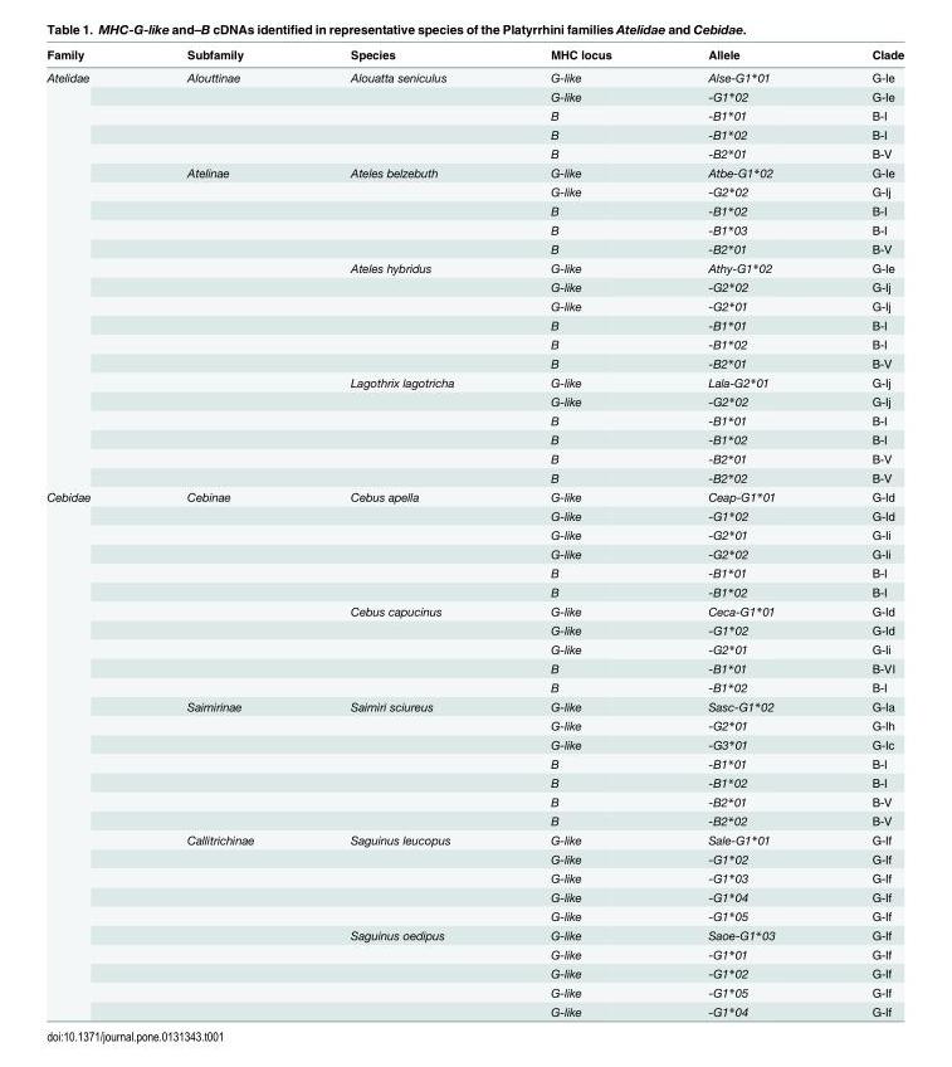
<table><thead><tr><td>Family</td><td>Subfamily</td><td>Species</td><td>MHC locus</td><td>Allele</td><td>Clade</td></tr></thead><tbody><tr><td rowspan="22">Atelidae</td><td>Alouttinae</td><td>Alouatta seniculus</td><td>G-like</td><td>Alse-G1*01</td><td>G-Ie</td></tr><tr><td></td><td></td><td>G-like</td><td>-G1*02</td><td>G-Ie</td></tr><tr><td></td><td></td><td>B</td><td>-B1*01</td><td>B-I</td></tr><tr><td></td><td></td><td>B</td><td>-B1*02</td><td>B-I</td></tr><tr><td></td><td></td><td>B</td><td>-B2*01</td><td>B-V</td></tr><tr><td>Atelinae</td><td>Ateles belzebuth</td><td>G-like</td><td>Atbe-G1*02</td><td>G-Ie</td></tr><tr><td></td><td></td><td>G-like</td><td>-G2*02</td><td>G-Ij</td></tr><tr><td></td><td></td><td>B</td><td>-B1*02</td><td>B-I</td></tr><tr><td></td><td></td><td>B</td><td>-B1*03</td><td>B-I</td></tr><tr><td></td><td></td><td>B</td><td>-B2*01</td><td>B-V</td></tr><tr><td></td><td>Ateles hybridus</td><td>G-like</td><td>Athy-G1*02</td><td>G-Ie</td></tr><tr><td></td><td></td><td>G-like</td><td>-G2*02</td><td>G-Ij</td></tr><tr><td></td><td></td><td>G-like</td><td>-G2*01</td><td>G-Ij</td></tr><tr><td></td><td></td><td>B</td><td>-B1*01</td><td>B-I</td></tr><tr><td></td><td></td><td>B</td><td>-B1*02</td><td>B-I</td></tr><tr><td></td><td></td><td>B</td><td>-B2*01</td><td>B-V</td></tr><tr><td></td><td>Lagothrix lagotricha</td><td>G-like</td><td>Lala-G2*01</td><td>G-Ij</td></tr><tr><td></td><td></td><td>G-like</td><td>-G2*02</td><td>G-Ij</td></tr><tr><td></td><td></td><td>B</td><td>-B1*01</td><td>B-I</td></tr><tr><td></td><td></td><td>B</td><td>-B1*02</td><td>B-I</td></tr><tr><td></td><td></td><td>B</td><td>-B2*01</td><td>B-V</td></tr><tr><td></td><td></td><td>B</td><td>-B2*02</td><td>B-V</td></tr><tr><td rowspan="28">Cebidae</td><td>Cebinae</td><td>Cebus apella</td><td>G-like</td><td>Ceap-G1*01</td><td>G-Id</td></tr><tr><td></td><td></td><td>G-like</td><td>-G1*02</td><td>G-Id</td></tr><tr><td></td><td></td><td>G-like</td><td>-G2*01</td><td>G-Ii</td></tr><tr><td></td><td></td><td>G-like</td><td>-G2*02</td><td>G-Ii</td></tr><tr><td></td><td></td><td>B</td><td>-B1*01</td><td>B-I</td></tr><tr><td></td><td></td><td>B</td><td>-B1*02</td><td>B-I</td></tr><tr><td></td><td>Cebus capucinus</td><td>G-like</td><td>Ceca-G1*01</td><td>G-Id</td></tr><tr><td></td><td></td><td>G-like</td><td>-G1*02</td><td>G-Id</td></tr><tr><td></td><td></td><td>G-like</td><td>-G2*01</td><td>G-Ii</td></tr><tr><td></td><td></td><td>B</td><td>-B1*01</td><td>B-VI</td></tr><tr><td></td><td></td><td>B</td><td>-B1*02</td><td>B-I</td></tr><tr><td>Saimirinae</td><td>Saimiri sciureus</td><td>G-like</td><td>Sasc-G1*02</td><td>G-Ia</td></tr><tr><td></td><td></td><td>G-like</td><td>-G2*01</td><td>G-Ih</td></tr><tr><td></td><td></td><td>G-like</td><td>-G3*01</td><td>G-Ic</td></tr><tr><td></td><td></td><td>B</td><td>-B1*01</td><td>B-I</td></tr><tr><td></td><td></td><td>B</td><td>-B1*02</td><td>B-I</td></tr><tr><td></td><td></td><td>B</td><td>-B2*01</td><td>B-V</td></tr><tr><td></td><td></td><td>B</td><td>-B2*02</td><td>B-V</td></tr><tr><td>Callitrichinae</td><td>Saguinus leucopus</td><td>G-like</td><td>Sale-G1*01</td><td>G-If</td></tr><tr><td></td><td></td><td>G-like</td><td>-G1*02</td><td>G-If</td></tr><tr><td></td><td></td><td>G-like</td><td>-G1*03</td><td>G-If</td></tr><tr><td></td><td></td><td>G-like</td><td>-G1*04</td><td>G-If</td></tr><tr><td></td><td></td><td>G-like</td><td>-G1*05</td><td>G-If</td></tr><tr><td></td><td>Saguinus oedipus</td><td>G-like</td><td>Saoe-G1*03</td><td>G-If</td></tr><tr><td></td><td></td><td>G-like</td><td>-G1*01</td><td>G-If</td></tr><tr><td></td><td></td><td>G-like</td><td>-G1*02</td><td>G-If</td></tr><tr><td></td><td></td><td>G-like</td><td>-G1*05</td><td>G-If</td></tr><tr><td></td><td></td><td>G-like</td><td>-G1*04</td><td>G-If</td></tr></tbody></table>